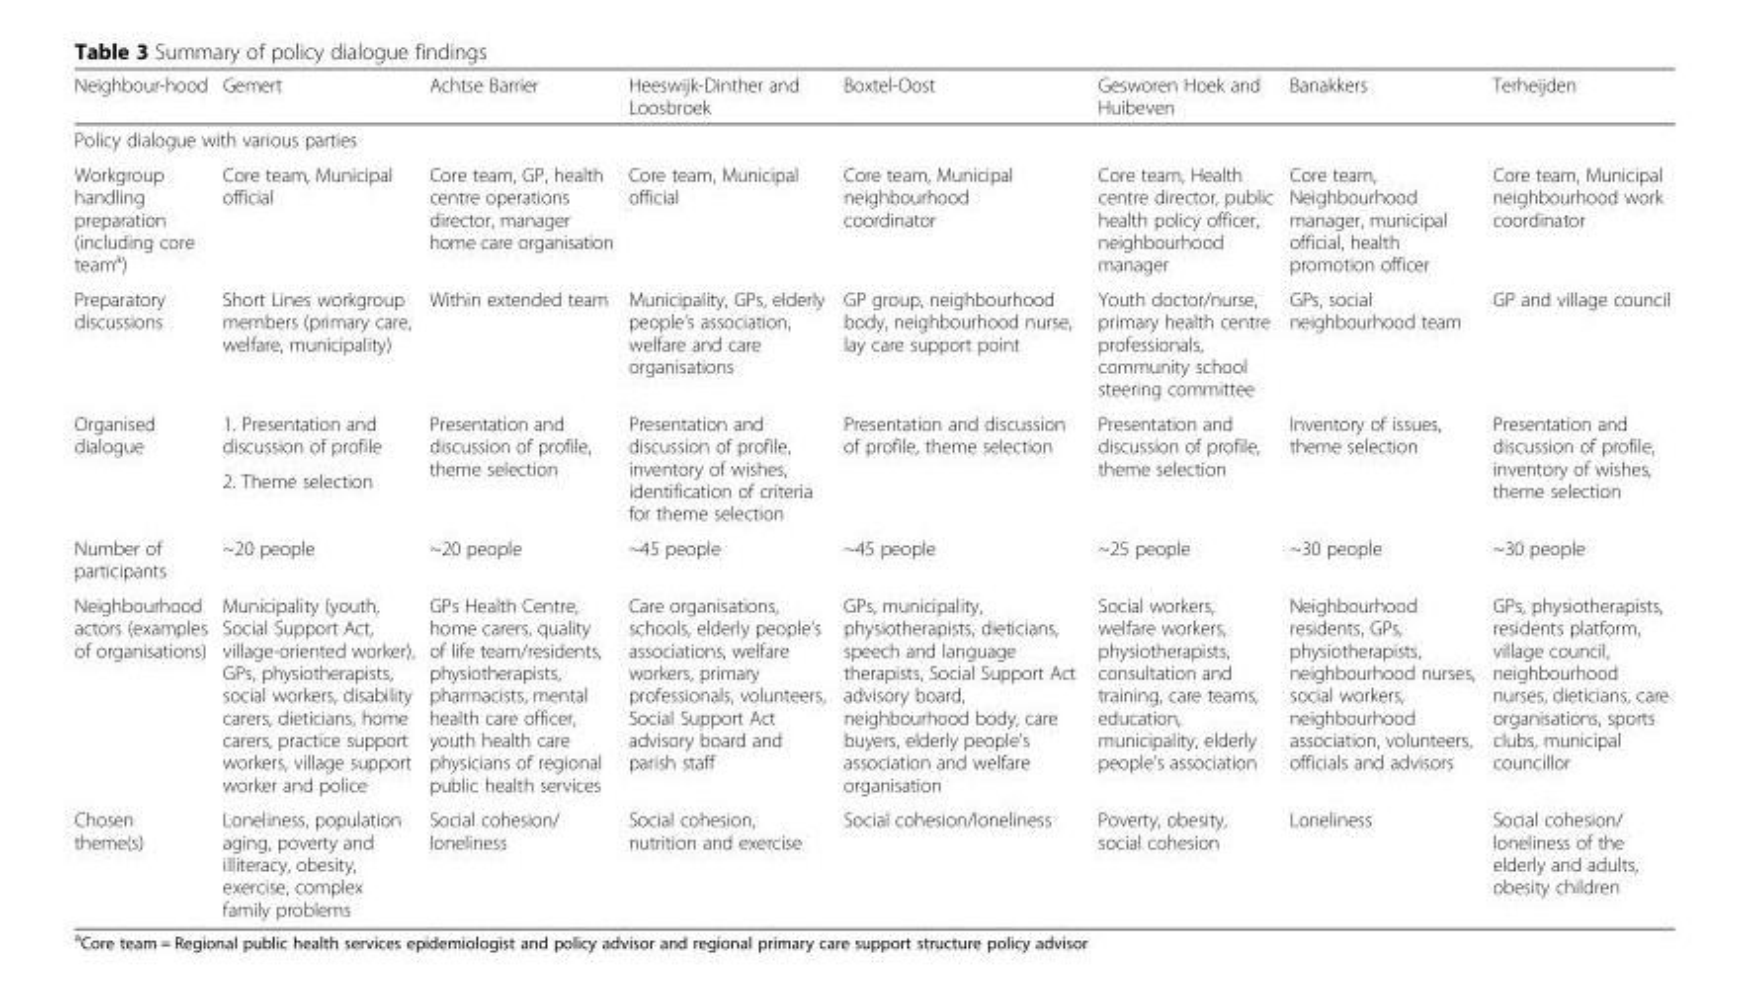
<table><thead><tr><td>Neighbour-hood</td><td>Gemert</td><td>Achtse Barrier</td><td>Heeswijk-Dinther and Loosbroek</td><td>Boxtel-Oost</td><td>Gesworen Hoek and Huibeven</td><td>Banakkers</td><td>Terheijden</td></tr></thead><tbody><tr><td colspan="8">Policy dialogue with various parties</td></tr><tr><td>Workgroup handling preparation (including core team<sup>a</sup>)</td><td>Core team, Municipal official</td><td>Core team, GP, health centre operations director, manager home care organisation</td><td>Core team, Municipal official</td><td>Core team, Municipal neighbourhood coordinator</td><td>Core team, Health centre director, public health policy officer, neighbourhood manager</td><td>Core team, Neighbourhood manager, municipal official, health promotion officer</td><td>Core team, Municipal neighbourhood work coordinator</td></tr><tr><td>Preparatory discussions</td><td>Short Lines workgroup members (primary care, welfare, municipality)</td><td>Within extended team</td><td>Municipality, GPs, elderly people’s association, welfare and care organisations</td><td>GP group, neighbourhood body, neighbourhood nurse, lay care support point</td><td>Youth doctor/nurse, primary health centre professionals, community school steering committee</td><td>GPs, social neighbourhood team</td><td>GP and village council</td></tr><tr><td rowspan="2">Organised dialogue</td><td>1. Presentation and discussion of profile</td><td rowspan="2">Presentation and discussion of profile, theme selection</td><td rowspan="2">Presentation and discussion of profile, inventory of wishes, identification of criteria for theme selection</td><td rowspan="2">Presentation and discussion of profile, theme selection</td><td rowspan="2">Presentation and discussion of profile, theme selection</td><td rowspan="2">Inventory of issues, theme selection</td><td rowspan="2">Presentation and discussion of profile, inventory of wishes, theme selection</td></tr><tr><td>2. Theme selection</td></tr><tr><td>Number of participants</td><td>~20 people</td><td>~20 people</td><td>~45 people</td><td>~45 people</td><td>~25 people</td><td>~30 people</td><td>~30 people</td></tr><tr><td>Neighbourhood actors (examples of organisations)</td><td>Municipality (youth, Social Support Act, village-oriented worker), GPs, physiotherapists, social workers, disability carers, dieticians, home carers, practice support workers, village support worker and police</td><td>GPs Health Centre, home carers, quality of life team/residents, physiotherapists, pharmacists, mental health care officer, youth health care physicians of regional public health services</td><td>Care organisations, schools, elderly people’s associations, welfare workers, primary professionals, volunteers, Social Support Act advisory board and parish staff</td><td>GPs, municipality, physiotherapists, dieticians, speech and language therapists, Social Support Act advisory board, neighbourhood body, care buyers, elderly people’s association and welfare organisation</td><td>Social workers, welfare workers, physiotherapists, consultation and training, care teams, education, municipality, elderly people’s association</td><td>Neighbourhood residents, GPs, physiotherapists, neighbourhood nurses, social workers, neighbourhood association, volunteers, officials and advisors</td><td>GPs, physiotherapists, residents platform, village council, neighbourhood nurses, dieticians, care organisations, sports clubs, municipal councillor</td></tr><tr><td>Chosen theme(s)</td><td>Loneliness, population aging, poverty and illiteracy, obesity, exercise, complex family problems</td><td>Social cohesion/ loneliness</td><td>Social cohesion, nutrition and exercise</td><td>Social cohesion/loneliness</td><td>Poverty, obesity, social cohesion</td><td>Loneliness</td><td>Social cohesion/ loneliness of the elderly and adults, obesity children</td></tr></tbody></table>